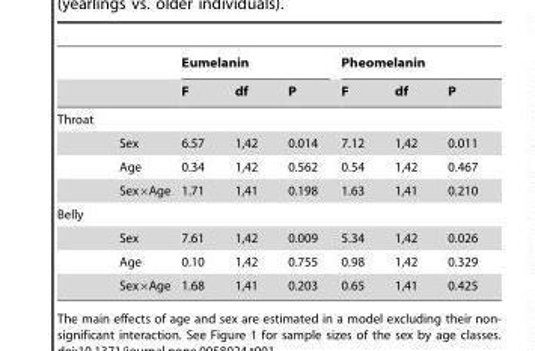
<table><thead><tr><td rowspan="2"></td><td rowspan="2"></td><td colspan="3">Eumelanin</td><td colspan="3">Pheomelanin</td></tr><tr><td>F</td><td>df</td><td>P</td><td>F</td><td>df</td><td>P</td></tr></thead><tbody><tr><td colspan="8">Throat</td></tr><tr><td></td><td>Sex</td><td>6.57</td><td>1,42</td><td>0.014</td><td>7.12</td><td>1,42</td><td>0.011</td></tr><tr><td></td><td>Age</td><td>0.34</td><td>1,42</td><td>0.562</td><td>0.54</td><td>1,42</td><td>0.467</td></tr><tr><td></td><td>Sex×Age</td><td>1.71</td><td>1,41</td><td>0.198</td><td>1.63</td><td>1,41</td><td>0.210</td></tr><tr><td colspan="8">Belly</td></tr><tr><td></td><td>Sex</td><td>7.61</td><td>1,42</td><td>0.009</td><td>5.34</td><td>1,42</td><td>0.026</td></tr><tr><td></td><td>Age</td><td>0.10</td><td>1,42</td><td>0.755</td><td>0.98</td><td>1,42</td><td>0.329</td></tr><tr><td></td><td>Sex×Age</td><td>1.68</td><td>1,41</td><td>0.203</td><td>0.65</td><td>1,41</td><td>0.425</td></tr></tbody></table>